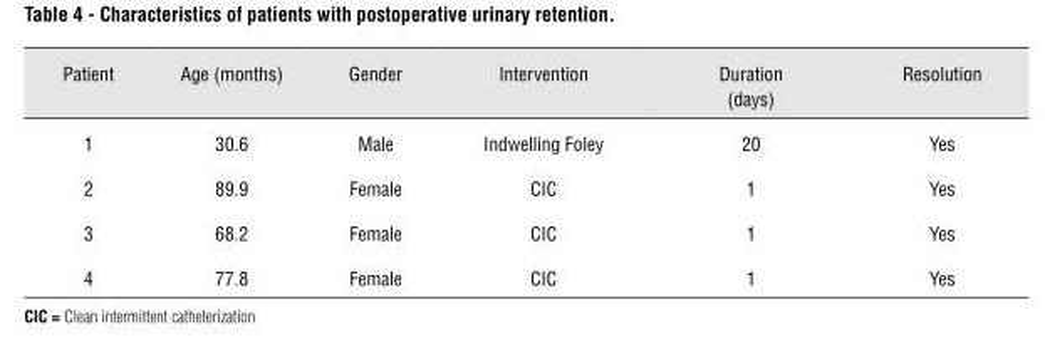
<table><thead><tr><td>Patient</td><td>Age (months)</td><td>Gender</td><td>Intervention</td><td>Duration (days)</td><td>Resolution</td></tr></thead><tbody><tr><td>1</td><td>30.6</td><td>Male</td><td>Indwelling Foley</td><td>20</td><td>Yes</td></tr><tr><td>2</td><td>89.9</td><td>Female</td><td>CIC</td><td>1</td><td>Yes</td></tr><tr><td>3</td><td>68.2</td><td>Female</td><td>CIC</td><td>1</td><td>Yes</td></tr><tr><td>4</td><td>77.8</td><td>Female</td><td>CIC</td><td>1</td><td>Yes</td></tr></tbody></table>